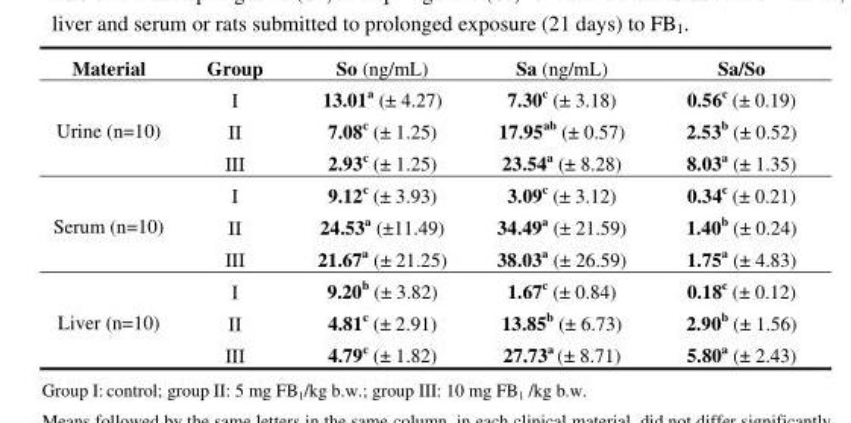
<table><thead><tr><td>Material</td><td>Group</td><td>So (ng/mL)</td><td>Sa (ng/mL)</td><td>Sa/So</td></tr></thead><tbody><tr><td rowspan="3">Urine (n=10)</td><td>I</td><td>13.01<sup>a</sup> (± 4.27)</td><td>7.30<sup>c</sup> (± 3.18)</td><td>0.56<sup>c</sup> (± 0.19)</td></tr><tr><td>II</td><td>7.08<sup>c</sup> (± 1.25)</td><td>17.95<sup>ab</sup> (± 0.57)</td><td>2.53<sup>b</sup> (± 0.52)</td></tr><tr><td>III</td><td>2.93<sup>c</sup> (± 1.25)</td><td>23.54<sup>a</sup> (± 8.28)</td><td>8.03<sup>a</sup> (± 1.35)</td></tr><tr><td rowspan="3">Serum (n=10)</td><td>I</td><td>9.12<sup>c</sup> (± 3.93)</td><td>3.09<sup>c</sup> (± 3.12)</td><td>0.34<sup>c</sup> (± 0.21)</td></tr><tr><td>II</td><td>24.53<sup>a</sup> (±11.49)</td><td>34.49<sup>a</sup> (± 21.59)</td><td>1.40<sup>b</sup> (± 0.24)</td></tr><tr><td>III</td><td>21.67<sup>a</sup> (± 21.25)</td><td>38.03<sup>a</sup> (± 26.59)</td><td>1.75<sup>a</sup> (± 4.83)</td></tr><tr><td rowspan="3">Liver (n=10)</td><td>I</td><td>9.20<sup>b</sup> (± 3.82)</td><td>1.67<sup>c</sup> (± 0.84)</td><td>0.18<sup>c</sup> (± 0.12)</td></tr><tr><td>II</td><td>4.81<sup>c</sup> (± 2.91)</td><td>13.85<sup>b</sup> (± 6.73)</td><td>2.90<sup>b</sup> (± 1.56)</td></tr><tr><td>III</td><td>4.79<sup>c</sup> (± 1.82)</td><td>27.73<sup>a</sup> (± 8.71)</td><td>5.80<sup>a</sup> (± 2.43)</td></tr></tbody></table>